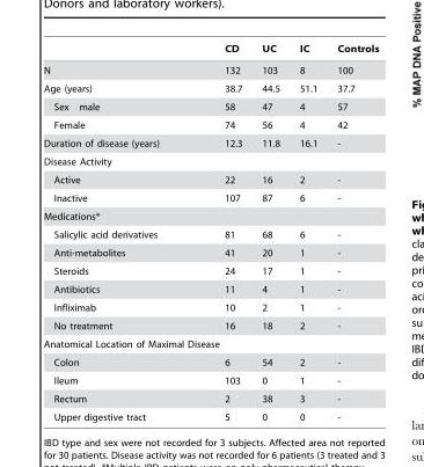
<table><thead><tr><td></td><td>CD</td><td>UC</td><td>IC</td><td>Controls</td></tr></thead><tbody><tr><td>N</td><td>132</td><td>103</td><td>8</td><td>100</td></tr><tr><td>Age (years)</td><td>38.7</td><td>44.5</td><td>51.1</td><td>37.7</td></tr><tr><td>Sex male</td><td>58</td><td>47</td><td>4</td><td>57</td></tr><tr><td>Female</td><td>74</td><td>56</td><td>4</td><td>42</td></tr><tr><td>Duration of disease (years)</td><td>12.3</td><td>11.8</td><td>16.1</td><td>-</td></tr><tr><td colspan="5">Disease Activity</td></tr><tr><td>Active</td><td>22</td><td>16</td><td>2</td><td>-</td></tr><tr><td>Inactive</td><td>107</td><td>87</td><td>6</td><td>-</td></tr><tr><td colspan="5">Medications*</td></tr><tr><td>Salicylic acid derivatives</td><td>81</td><td>68</td><td>6</td><td>-</td></tr><tr><td>Anti-metabolites</td><td>41</td><td>20</td><td>1</td><td>-</td></tr><tr><td>Steroids</td><td>24</td><td>17</td><td>1</td><td>-</td></tr><tr><td>Antibiotics</td><td>11</td><td>4</td><td>1</td><td>-</td></tr><tr><td>Infliximab</td><td>10</td><td>2</td><td>1</td><td>-</td></tr><tr><td>No treatment</td><td>16</td><td>18</td><td>2</td><td>-</td></tr><tr><td colspan="5">Anatomical Location of Maximal Disease</td></tr><tr><td>Colon</td><td>6</td><td>54</td><td>2</td><td>-</td></tr><tr><td>Ileum</td><td>103</td><td>0</td><td>1</td><td>-</td></tr><tr><td>Rectum</td><td>2</td><td>38</td><td>3</td><td>-</td></tr><tr><td>Upper digestive tract</td><td>5</td><td>0</td><td>0</td><td>-</td></tr></tbody></table>